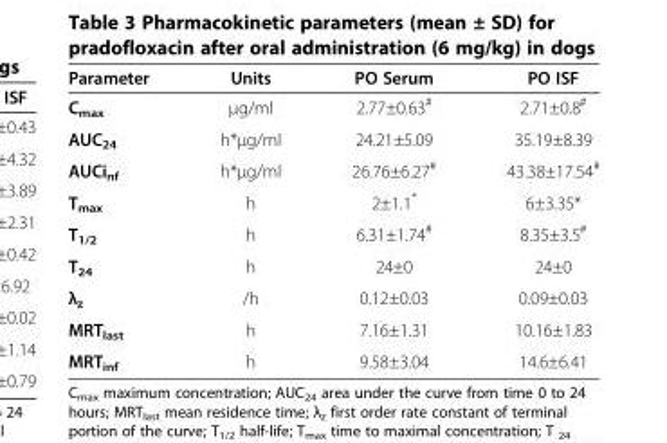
<table><thead><tr><td>Parameter</td><td>Units</td><td>PO Serum</td><td>PO ISF</td></tr></thead><tbody><tr><td>C<sub>max</sub></td><td>μg/ml</td><td>2.77±0.63<sup>#</sup></td><td>2.71±0.8<sup>#</sup></td></tr><tr><td>AUC<sub>24</sub></td><td>h*μg/ml</td><td>24.21±5.09</td><td>35.19±8.39</td></tr><tr><td>AUCi<sub>nf</sub></td><td>h*μg/ml</td><td>26.76±6.27<sup>#</sup></td><td>43.38±17.54<sup>#</sup></td></tr><tr><td>T<sub>max</sub></td><td>h</td><td>2±1.1*</td><td>6±3.35*</td></tr><tr><td>T<sub>1/2</sub></td><td>h</td><td>6.31±1.74<sup>#</sup></td><td>8.35±3.5<sup>#</sup></td></tr><tr><td>T<sub>24</sub></td><td>h</td><td>24±0</td><td>24±0</td></tr><tr><td>λ<sub>z</sub></td><td>/h</td><td>0.12±0.03</td><td>0.09±0.03</td></tr><tr><td>MRT<sub>last</sub></td><td>h</td><td>7.16±1.31</td><td>10.16±1.83</td></tr><tr><td>MRT<sub>inf</sub></td><td>h</td><td>9.58±3.04</td><td>14.6±6.41</td></tr></tbody></table>